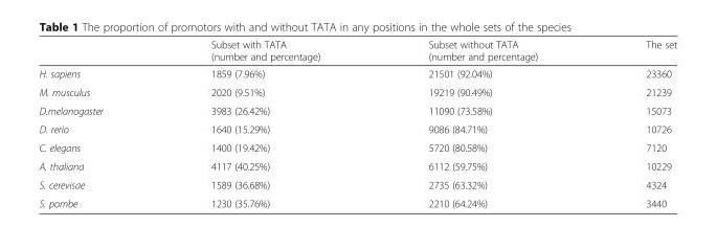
<table><thead><tr><td></td><td>Subset with TATA (number and percentage)</td><td>Subset without TATA (number and percentage)</td><td>The set</td></tr></thead><tbody><tr><td>H. sapiens</td><td>1859 (7.96%)</td><td>21501 (92.04%)</td><td>23360</td></tr><tr><td>M. musculus</td><td>2020 (9.51%)</td><td>19219 (90.49%)</td><td>21239</td></tr><tr><td>D.melanogaster</td><td>3983 (26.42%)</td><td>11090 (73.58%)</td><td>15073</td></tr><tr><td>D. rerio</td><td>1640 (15.29%)</td><td>9086 (84.71%)</td><td>10726</td></tr><tr><td>C. elegans</td><td>1400 (19.42%)</td><td>5720 (80.58%)</td><td>7120</td></tr><tr><td>A. thaliana</td><td>4117 (40.25%)</td><td>6112 (59.75%)</td><td>10229</td></tr><tr><td>S. cerevisae</td><td>1589 (36.68%)</td><td>2735 (63.32%)</td><td>4324</td></tr><tr><td>S. pombe</td><td>1230 (35.76%)</td><td>2210 (64.24%)</td><td>3440</td></tr></tbody></table>